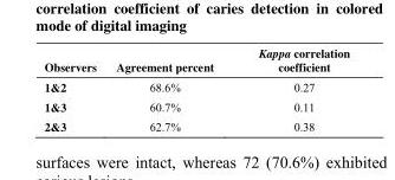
<table><tbody><tr><td>Observers</td><td>Agreement percent</td><td>Kappa correlation coefficient</td></tr><tr><td>1&amp;2</td><td>68.6%</td><td>0.27</td></tr><tr><td>1&amp;3</td><td>60.7%</td><td>0.11</td></tr><tr><td>2&amp;3</td><td>62.7%</td><td>0.38</td></tr></tbody></table>